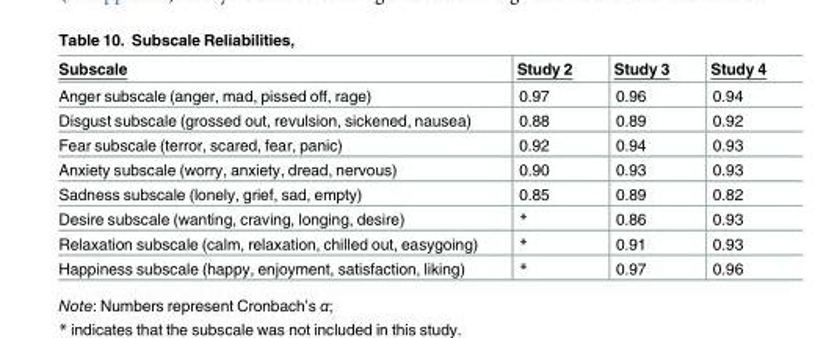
<table><thead><tr><td>Subscale</td><td>Study 2</td><td>Study 3</td><td>Study 4</td></tr></thead><tbody><tr><td>Anger subscale (anger, mad, pissed off, rage)</td><td>0.97</td><td>0.96</td><td>0.94</td></tr><tr><td>Disgust subscale (grossed out, revulsion, sickened, nausea)</td><td>0.88</td><td>0.89</td><td>0.92</td></tr><tr><td>Fear subscale (terror, scared, fear, panic)</td><td>0.92</td><td>0.94</td><td>0.93</td></tr><tr><td>Anxiety subscale (worry, anxiety, dread, nervous)</td><td>0.90</td><td>0.93</td><td>0.93</td></tr><tr><td>Sadness subscale (lonely, grief, sad, empty)</td><td>0.85</td><td>0.89</td><td>0.82</td></tr><tr><td>Desire subscale (wanting, craving, longing, desire)</td><td>*</td><td>0.86</td><td>0.93</td></tr><tr><td>Relaxation subscale (calm, relaxation, chilled out, easygoing)</td><td>*</td><td>0.91</td><td>0.93</td></tr><tr><td>Happiness subscale (happy, enjoyment, satisfaction, liking)</td><td>*</td><td>0.97</td><td>0.96</td></tr></tbody></table>